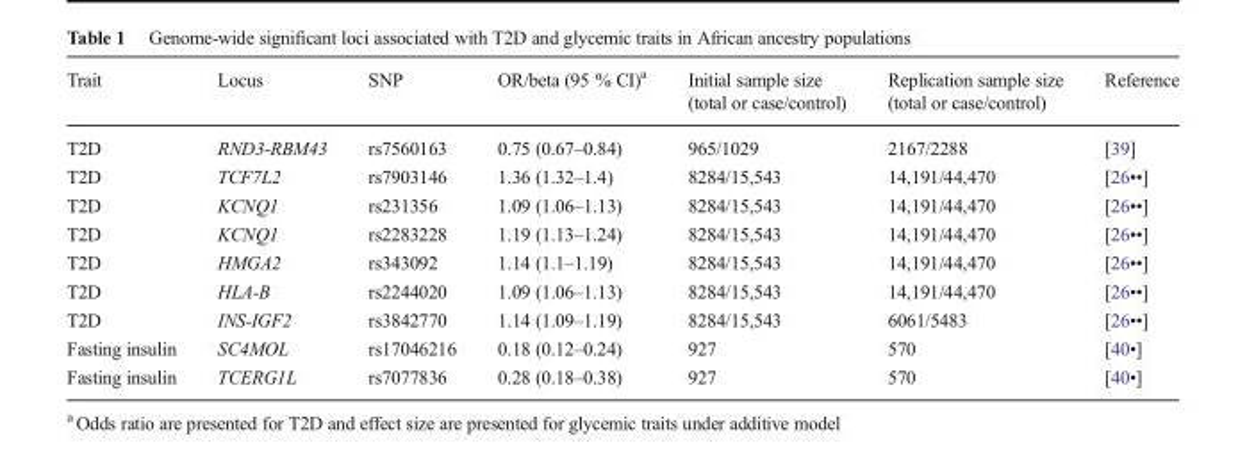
<table><thead><tr><td>Trait</td><td>Locus</td><td>SNP</td><td>OR/beta (95 % CI)<sup>a</sup></td><td>Initial sample size (total or case/control)</td><td>Replication sample size (total or case/control)</td><td>Reference</td></tr></thead><tbody><tr><td>T2D</td><td>RND3-RBM43</td><td>rs7560163</td><td>0.75 (0.67–0.84)</td><td>965/1029</td><td>2167/2288</td><td>[39]</td></tr><tr><td>T2D</td><td>TCF7L2</td><td>rs7903146</td><td>1.36 (1.32–1.4)</td><td>8284/15,543</td><td>14,191/44,470</td><td>[26••]</td></tr><tr><td>T2D</td><td>KCNQ1</td><td>rs231356</td><td>1.09 (1.06–1.13)</td><td>8284/15,543</td><td>14,191/44,470</td><td>[26••]</td></tr><tr><td>T2D</td><td>KCNQ1</td><td>rs2283228</td><td>1.19 (1.13–1.24)</td><td>8284/15,543</td><td>14,191/44,470</td><td>[26••]</td></tr><tr><td>T2D</td><td>HMGA2</td><td>rs343092</td><td>1.14 (1.1–1.19)</td><td>8284/15,543</td><td>14,191/44,470</td><td>[26••]</td></tr><tr><td>T2D</td><td>HLA-B</td><td>rs2244020</td><td>1.09 (1.06–1.13)</td><td>8284/15,543</td><td>14,191/44,470</td><td>[26••]</td></tr><tr><td>T2D</td><td>INS-IGF2</td><td>rs3842770</td><td>1.14 (1.09–1.19)</td><td>8284/15,543</td><td>6061/5483</td><td>[26••]</td></tr><tr><td>Fasting insulin</td><td>SC4MOL</td><td>rs17046216</td><td>0.18 (0.12–0.24)</td><td>927</td><td>570</td><td>[40•]</td></tr><tr><td>Fasting insulin</td><td>TCERG1L</td><td>rs7077836</td><td>0.28 (0.18–0.38)</td><td>927</td><td>570</td><td>[40•]</td></tr></tbody></table>